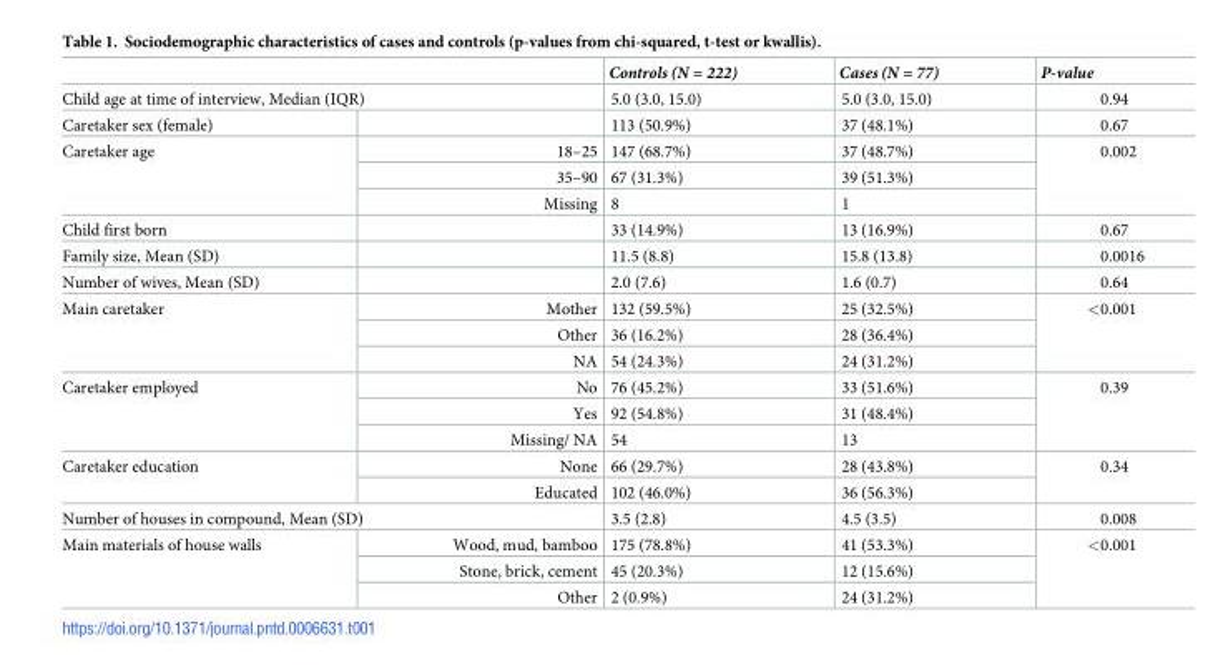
<table><thead><tr><td></td><td></td><td>Controls (N = 222)</td><td>Cases (N = 77)</td><td>P-value</td></tr></thead><tbody><tr><td colspan="2">Child age at time of interview, Median (IQR)</td><td>5.0 (3.0, 15.0)</td><td>5.0 (3.0, 15.0)</td><td>0.94</td></tr><tr><td>Caretaker sex (female)</td><td></td><td>113 (50.9%)</td><td>37 (48.1%)</td><td>0.67</td></tr><tr><td rowspan="3">Caretaker age</td><td>18–25</td><td>147 (68.7%)</td><td>37 (48.7%)</td><td rowspan="3">0.002</td></tr><tr><td>35–90</td><td>67 (31.3%)</td><td>39 (51.3%)</td></tr><tr><td>Missing</td><td>8</td><td>1</td></tr><tr><td>Child first born</td><td></td><td>33 (14.9%)</td><td>13 (16.9%)</td><td>0.67</td></tr><tr><td>Family size, Mean (SD)</td><td></td><td>11.5 (8.8)</td><td>15.8 (13.8)</td><td>0.0016</td></tr><tr><td>Number of wives, Mean (SD)</td><td></td><td>2.0 (7.6)</td><td>1.6 (0.7)</td><td>0.64</td></tr><tr><td rowspan="3">Main caretaker</td><td>Mother</td><td>132 (59.5%)</td><td>25 (32.5%)</td><td rowspan="3">&lt;0.001</td></tr><tr><td>Other</td><td>36 (16.2%)</td><td>28 (36.4%)</td></tr><tr><td>NA</td><td>54 (24.3%)</td><td>24 (31.2%)</td></tr><tr><td rowspan="3">Caretaker employed</td><td>No</td><td>76 (45.2%)</td><td>33 (51.6%)</td><td rowspan="3">0.39</td></tr><tr><td>Yes</td><td>92 (54.8%)</td><td>31 (48.4%)</td></tr><tr><td>Missing/ NA</td><td>54</td><td>13</td></tr><tr><td rowspan="2">Caretaker education</td><td>None</td><td>66 (29.7%)</td><td>28 (43.8%)</td><td rowspan="2">0.34</td></tr><tr><td>Educated</td><td>102 (46.0%)</td><td>36 (56.3%)</td></tr><tr><td colspan="2">Number of houses in compound, Mean (SD)</td><td>3.5 (2.8)</td><td>4.5 (3.5)</td><td>0.008</td></tr><tr><td rowspan="3">Main materials of house walls</td><td>Wood, mud, bamboo</td><td>175 (78.8%)</td><td>41 (53.3%)</td><td rowspan="3">&lt;0.001</td></tr><tr><td>Stone, brick, cement</td><td>45 (20.3%)</td><td>12 (15.6%)</td></tr><tr><td>Other</td><td>2 (0.9%)</td><td>24 (31.2%)</td></tr></tbody></table>